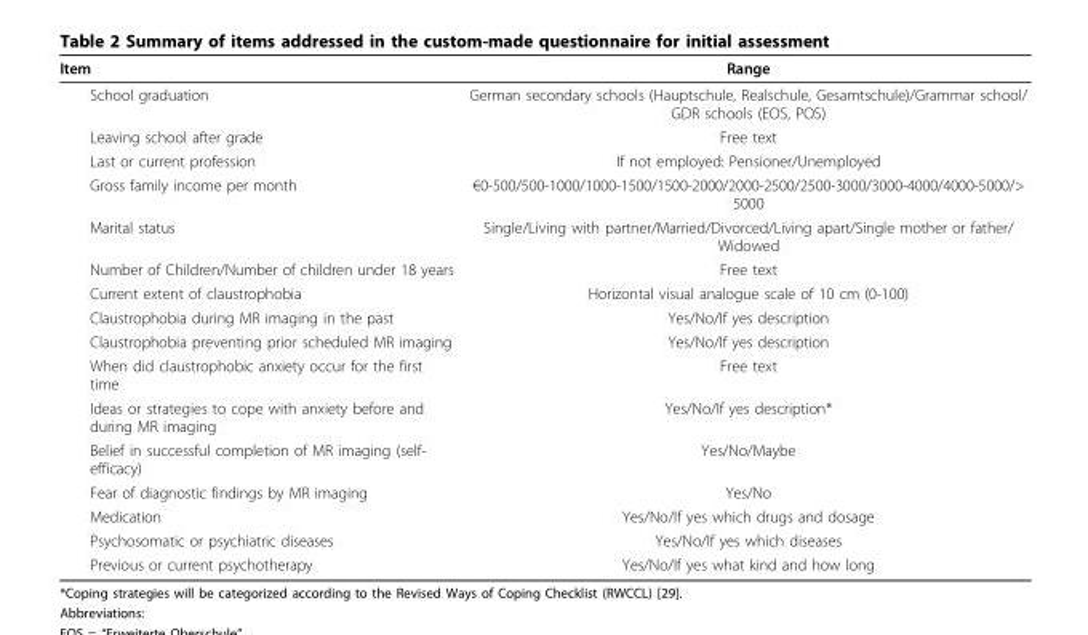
<table><thead><tr><td>Item</td><td>Range</td></tr></thead><tbody><tr><td>School graduation</td><td>German secondary schools (Hauptschule, Realschule, Gesamtschule)/Grammar school/ GDR schools (EOS, POS)</td></tr><tr><td>Leaving school after grade</td><td>Free text</td></tr><tr><td>Last or current profession</td><td>If not employed: Pensioner/Unemployed</td></tr><tr><td>Gross family income per month</td><td>€0-500/500-1000/1000-1500/1500-2000/2000-2500/2500-3000/3000-4000/4000-5000/&gt; 5000</td></tr><tr><td>Marital status</td><td>Single/Living with partner/Married/Divorced/Living apart/Single mother or father/ Widowed</td></tr><tr><td>Number of Children/Number of children under 18 years</td><td>Free text</td></tr><tr><td>Current extent of claustrophobia</td><td>Horizontal visual analogue scale of 10 cm (0-100)</td></tr><tr><td>Claustrophobia during MR imaging in the past</td><td>Yes/No/If yes description</td></tr><tr><td>Claustrophobia preventing prior scheduled MR imaging</td><td>Yes/No/If yes description</td></tr><tr><td>When did claustrophobic anxiety occur for the first time</td><td>Free text</td></tr><tr><td>Ideas or strategies to cope with anxiety before and during MR imaging</td><td>Yes/No/If yes description*</td></tr><tr><td>Belief in successful completion of MR imaging (self- efficacy)</td><td>Yes/No/Maybe</td></tr><tr><td>Fear of diagnostic findings by MR imaging</td><td>Yes/No</td></tr><tr><td>Medication</td><td>Yes/No/If yes which drugs and dosage</td></tr><tr><td>Psychosomatic or psychiatric diseases</td><td>Yes/No/If yes which diseases</td></tr><tr><td>Previous or current psychotherapy</td><td>Yes/No/If yes what kind and how long</td></tr></tbody></table>